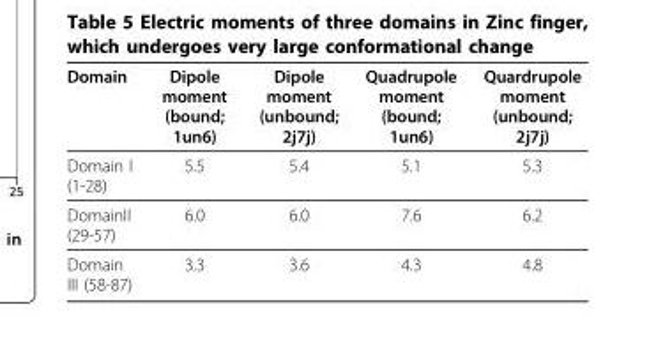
<table><thead><tr><td>Domain</td><td>Dipole moment (bound; 1un6)</td><td>Dipole moment (unbound; 2j7j)</td><td>Quadrupole moment (bound; 1un6)</td><td>Quardrupole moment (unbound; 2j7j)</td></tr></thead><tbody><tr><td>Domain I (1-28)</td><td>5.5</td><td>5.4</td><td>5.1</td><td>5.3</td></tr><tr><td>DomainII (29-57)</td><td>6.0</td><td>6.0</td><td>7.6</td><td>6.2</td></tr><tr><td>Domain III (58-87)</td><td>3.3</td><td>3.6</td><td>4.3</td><td>4.8</td></tr></tbody></table>